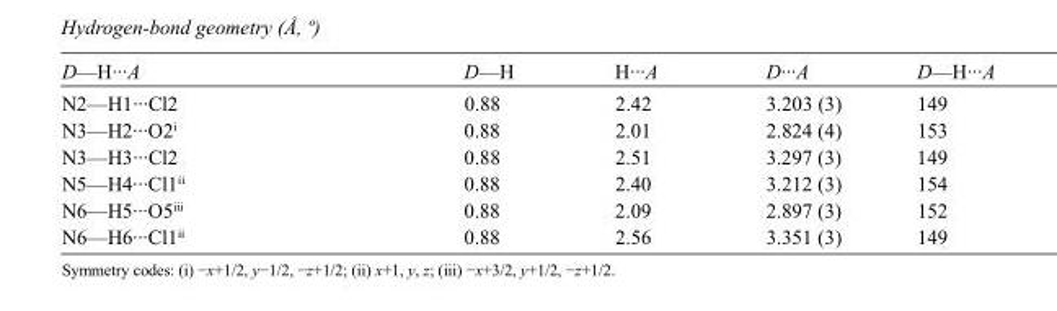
<table><tbody><tr><td>D—H···A</td><td>D—H</td><td>H···A</td><td>D···A</td><td>D—H···A</td></tr><tr><td>N2—H1···Cl2</td><td>0.88</td><td>2.42</td><td>3.203 (3)</td><td>149</td></tr><tr><td>N3—H2···O2<sup>i</sup></td><td>0.88</td><td>2.01</td><td>2.824 (4)</td><td>153</td></tr><tr><td>N3—H3···Cl2</td><td>0.88</td><td>2.51</td><td>3.297 (3)</td><td>149</td></tr><tr><td>N5—H4···Cl1<sup>ii</sup></td><td>0.88</td><td>2.40</td><td>3.212 (3)</td><td>154</td></tr><tr><td>N6—H5···O5<sup>iii</sup></td><td>0.88</td><td>2.09</td><td>2.897 (3)</td><td>152</td></tr><tr><td>N6—H6···Cl1<sup>ii</sup></td><td>0.88</td><td>2.56</td><td>3.351 (3)</td><td>149</td></tr></tbody></table>